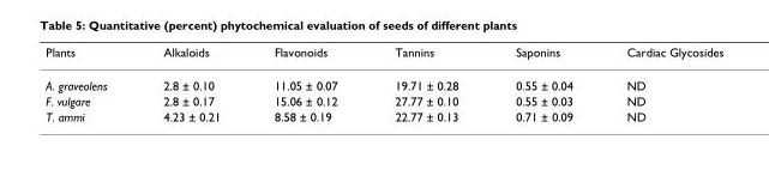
<table><thead><tr><td>Plants</td><td>Alkaloids</td><td>Flavonoids</td><td>Tannins</td><td>Saponins</td><td>Cardiac Glycosides</td></tr></thead><tbody><tr><td>A. graveolens</td><td>2.8 ± 0.10</td><td>11.05 ± 0.07</td><td>19.71 ± 0.28</td><td>0.55 ± 0.04</td><td>ND</td></tr><tr><td>F. vulgare</td><td>2.8 ± 0.17</td><td>15.06 ± 0.12</td><td>27.77 ± 0.10</td><td>0.55 ± 0.03</td><td>ND</td></tr><tr><td>T. ammi</td><td>4.23 ± 0.21</td><td>8.58 ± 0.19</td><td>22.77 ± 0.13</td><td>0.71 ± 0.09</td><td>ND</td></tr></tbody></table>